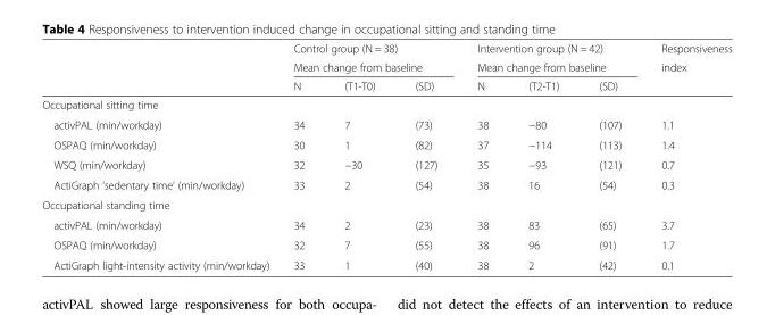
<table><thead><tr><td rowspan="3"></td><td rowspan="2" colspan="3">Control group (N = 38) Mean change from baseline</td><td rowspan="2" colspan="3">Intervention group (N = 42) Mean change from baseline</td><td rowspan="3">Responsiveness index</td></tr><tr></tr><tr><td>N</td><td>(T1-T0)</td><td>(SD)</td><td>N</td><td>(T2-T1)</td><td>(SD)</td></tr></thead><tbody><tr><td colspan="8">Occupational sitting time</td></tr><tr><td>activPAL (min/workday)</td><td>34</td><td>7</td><td>(73)</td><td>38</td><td>−80</td><td>(107)</td><td>1.1</td></tr><tr><td>OSPAQ (min/workday)</td><td>30</td><td>1</td><td>(82)</td><td>37</td><td>−114</td><td>(113)</td><td>1.4</td></tr><tr><td>WSQ (min/workday)</td><td>32</td><td>−30</td><td>(127)</td><td>35</td><td>−93</td><td>(121)</td><td>0.7</td></tr><tr><td>ActiGraph ‘sedentary time’ (min/workday)</td><td>33</td><td>2</td><td>(54)</td><td>38</td><td>16</td><td>(54)</td><td>0.3</td></tr><tr><td colspan="8">Occupational standing time</td></tr><tr><td>activPAL (min/workday)</td><td>34</td><td>2</td><td>(23)</td><td>38</td><td>83</td><td>(65)</td><td>3.7</td></tr><tr><td>OSPAQ (min/workday)</td><td>32</td><td>7</td><td>(55)</td><td>38</td><td>96</td><td>(91)</td><td>1.7</td></tr><tr><td>ActiGraph light-intensity activity (min/workday)</td><td>33</td><td>1</td><td>(40)</td><td>38</td><td>2</td><td>(42)</td><td>0.1</td></tr></tbody></table>